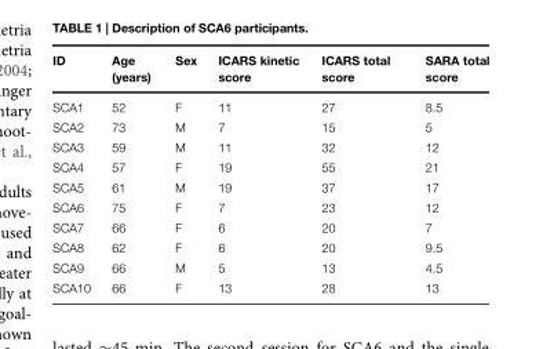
<table><thead><tr><td>ID</td><td>Age (years)</td><td>Sex</td><td>ICARS kinetic score</td><td>ICARS total score</td><td>SARA total score</td></tr></thead><tbody><tr><td>SCA1</td><td>52</td><td>F</td><td>11</td><td>27</td><td>8.5</td></tr><tr><td>SCA2</td><td>73</td><td>M</td><td>7</td><td>15</td><td>5</td></tr><tr><td>SCA3</td><td>59</td><td>M</td><td>11</td><td>32</td><td>12</td></tr><tr><td>SCA4</td><td>57</td><td>F</td><td>19</td><td>55</td><td>21</td></tr><tr><td>SCA5</td><td>61</td><td>M</td><td>19</td><td>37</td><td>17</td></tr><tr><td>SCA6</td><td>75</td><td>F</td><td>7</td><td>23</td><td>12</td></tr><tr><td>SCA7</td><td>66</td><td>F</td><td>6</td><td>20</td><td>7</td></tr><tr><td>SCA8</td><td>62</td><td>F</td><td>6</td><td>20</td><td>9.5</td></tr><tr><td>SCA9</td><td>66</td><td>M</td><td>5</td><td>13</td><td>4.5</td></tr><tr><td>SCA10</td><td>66</td><td>F</td><td>13</td><td>28</td><td>13</td></tr></tbody></table>